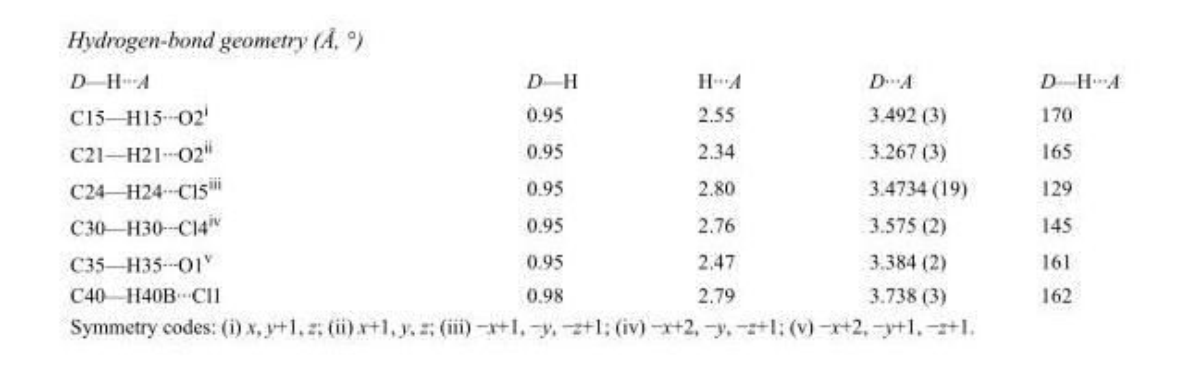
<table><tbody><tr><td>D—H···A</td><td>D—H</td><td>H···A</td><td>D···A</td><td>D—H···A</td></tr><tr><td>C15—H15···O2<sup>i</sup></td><td>0.95</td><td>2.55</td><td>3.492 (3)</td><td>170</td></tr><tr><td>C21—H21···O2<sup>ii</sup></td><td>0.95</td><td>2.34</td><td>3.267 (3)</td><td>165</td></tr><tr><td>C24—H24···Cl5<sup>iii</sup></td><td>0.95</td><td>2.80</td><td>3.4734 (19)</td><td>129</td></tr><tr><td>C30—H30···Cl4<sup>iv</sup></td><td>0.95</td><td>2.76</td><td>3.575 (2)</td><td>145</td></tr><tr><td>C35—H35···O1<sup>v</sup></td><td>0.95</td><td>2.47</td><td>3.384 (2)</td><td>161</td></tr><tr><td>C40—H40B···Cl1</td><td>0.98</td><td>2.79</td><td>3.738 (3)</td><td>162</td></tr></tbody></table>